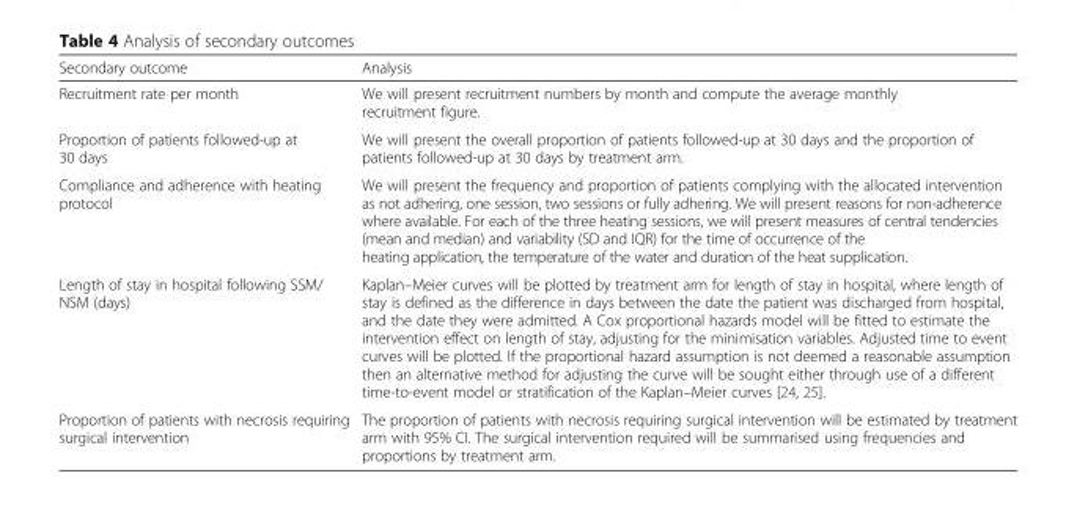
<table><thead><tr><td>Secondary outcome</td><td>Analysis</td></tr></thead><tbody><tr><td>Recruitment rate per month</td><td>We will present recruitment numbers by month and compute the average monthly recruitment figure.</td></tr><tr><td>Proportion of patients followed-up at 30 days</td><td>We will present the overall proportion of patients followed-up at 30 days and the proportion of patients followed-up at 30 days by treatment arm.</td></tr><tr><td>Compliance and adherence with heating protocol</td><td>We will present the frequency and proportion of patients complying with the allocated intervention as not adhering, one session, two sessions or fully adhering. We will present reasons for non-adherence where available. For each of the three heating sessions, we will present measures of central tendencies (mean and median) and variability (SD and IQR) for the time of occurrence of the heating application, the temperature of the water and duration of the heat supplication.</td></tr><tr><td>Length of stay in hospital following SSM/ NSM (days)</td><td>Kaplan–Meier curves will be plotted by treatment arm for length of stay in hospital, where length of stay is defined as the difference in days between the date the patient was discharged from hospital, and the date they were admitted. A Cox proportional hazards model will be fitted to estimate the intervention effect on length of stay, adjusting for the minimisation variables. Adjusted time to event curves will be plotted. If the proportional hazard assumption is not deemed a reasonable assumption then an alternative method for adjusting the curve will be sought either through use of a different time-to-event model or stratification of the Kaplan–Meier curves [24, 25].</td></tr><tr><td>Proportion of patients with necrosis requiring surgical intervention</td><td>The proportion of patients with necrosis requiring surgical intervention will be estimated by treatment arm with 95% CI. The surgical intervention required will be summarised using frequencies and proportions by treatment arm.</td></tr></tbody></table>